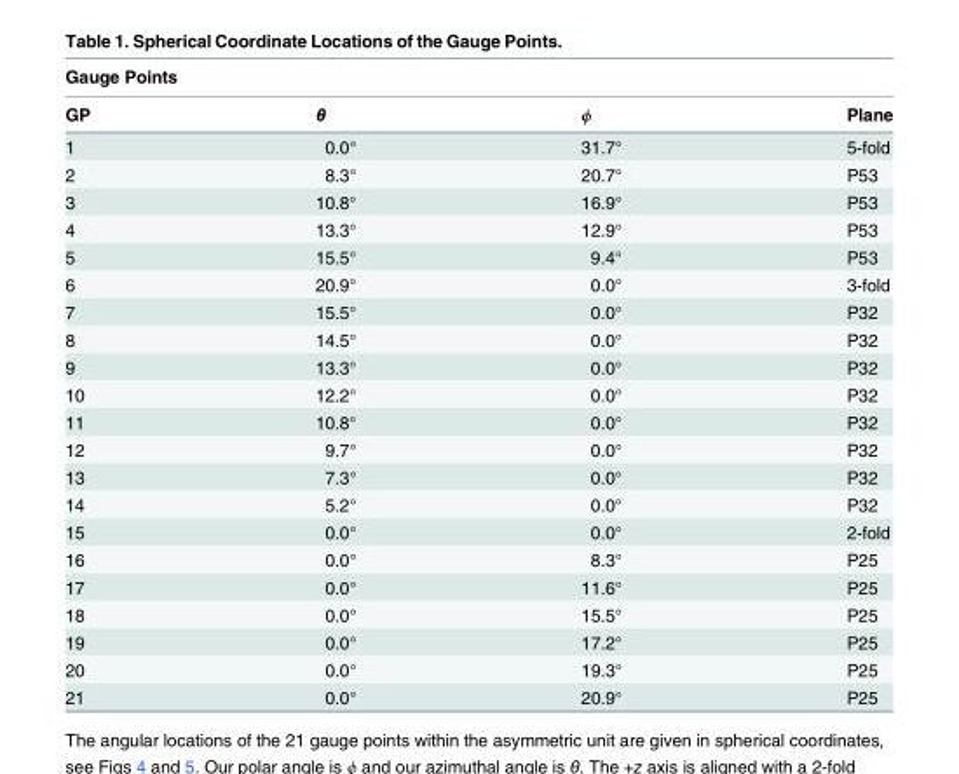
<table><thead><tr><td colspan="4">Gauge Points</td></tr><tr><td>GP</td><td>θ</td><td>ϕ</td><td>Plane</td></tr></thead><tbody><tr><td>1</td><td>0.0°</td><td>31.7°</td><td>5-fold</td></tr><tr><td>2</td><td>8.3°</td><td>20.7°</td><td>P53</td></tr><tr><td>3</td><td>10.8°</td><td>16.9°</td><td>P53</td></tr><tr><td>4</td><td>13.3°</td><td>12.9°</td><td>P53</td></tr><tr><td>5</td><td>15.5°</td><td>9.4°</td><td>P53</td></tr><tr><td>6</td><td>20.9°</td><td>0.0°</td><td>3-fold</td></tr><tr><td>7</td><td>15.5°</td><td>0.0°</td><td>P32</td></tr><tr><td>8</td><td>14.5°</td><td>0.0°</td><td>P32</td></tr><tr><td>9</td><td>13.3°</td><td>0.0°</td><td>P32</td></tr><tr><td>10</td><td>12.2°</td><td>0.0°</td><td>P32</td></tr><tr><td>11</td><td>10.8°</td><td>0.0°</td><td>P32</td></tr><tr><td>12</td><td>9.7°</td><td>0.0°</td><td>P32</td></tr><tr><td>13</td><td>7.3°</td><td>0.0°</td><td>P32</td></tr><tr><td>14</td><td>5.2°</td><td>0.0°</td><td>P32</td></tr><tr><td>15</td><td>0.0°</td><td>0.0°</td><td>2-fold</td></tr><tr><td>16</td><td>0.0°</td><td>8.3°</td><td>P25</td></tr><tr><td>17</td><td>0.0°</td><td>11.6°</td><td>P25</td></tr><tr><td>18</td><td>0.0°</td><td>15.5°</td><td>P25</td></tr><tr><td>19</td><td>0.0°</td><td>17.2°</td><td>P25</td></tr><tr><td>20</td><td>0.0°</td><td>19.3°</td><td>P25</td></tr><tr><td>21</td><td>0.0°</td><td>20.9°</td><td>P25</td></tr></tbody></table>